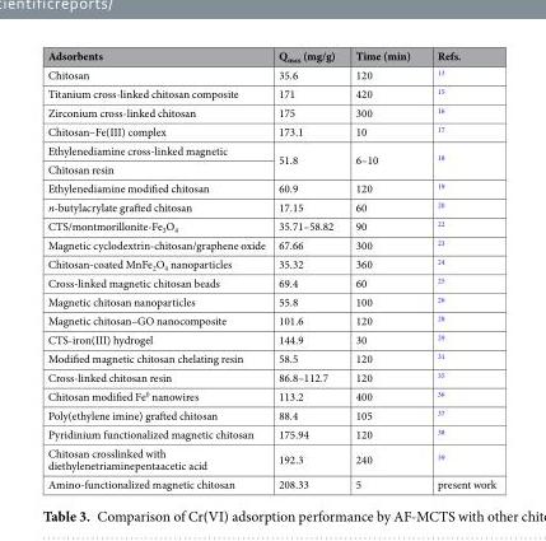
<table><thead><tr><td>Adsorbents</td><td>Q<sub>max</sub> (mg/g)</td><td>Time (min)</td><td>Refs.</td></tr></thead><tbody><tr><td>Chitosan</td><td>35.6</td><td>120</td><td><sup>13</sup></td></tr><tr><td>Titanium cross-linked chitosan composite</td><td>171</td><td>420</td><td><sup>15</sup></td></tr><tr><td>Zirconium cross-linked chitosan</td><td>175</td><td>300</td><td><sup>16</sup></td></tr><tr><td>Chitosan–Fe(III) complex</td><td>173.1</td><td>10</td><td><sup>17</sup></td></tr><tr><td>Ethylenediamine cross-linked magnetic</td><td rowspan="2">51.8</td><td rowspan="2">6–10</td><td rowspan="2"><sup>18</sup></td></tr><tr><td>Chitosan resin</td></tr><tr><td>Ethylenediamine modified chitosan</td><td>60.9</td><td>120</td><td><sup>19</sup></td></tr><tr><td>n-butylacrylate grafted chitosan</td><td>17.15</td><td>60</td><td><sup>20</sup></td></tr><tr><td>CTS/montmorillonite-Fe<sub>3</sub>O<sub>4</sub></td><td>35.71–58.82</td><td>90</td><td><sup>22</sup></td></tr><tr><td>Magnetic cyclodextrin-chitosan/graphene oxide</td><td>67.66</td><td>300</td><td><sup>23</sup></td></tr><tr><td>Chitosan-coated MnFe<sub>2</sub>O<sub>4</sub> nanoparticles</td><td>35.32</td><td>360</td><td><sup>24</sup></td></tr><tr><td>Cross-linked magnetic chitosan beads</td><td>69.4</td><td>60</td><td><sup>25</sup></td></tr><tr><td>Magnetic chitosan nanoparticles</td><td>55.8</td><td>100</td><td><sup>26</sup></td></tr><tr><td>Magnetic chitosan–GO nanocomposite</td><td>101.6</td><td>120</td><td><sup>28</sup></td></tr><tr><td>CTS-iron(III) hydrogel</td><td>144.9</td><td>30</td><td><sup>29</sup></td></tr><tr><td>Modified magnetic chitosan chelating resin</td><td>58.5</td><td>120</td><td><sup>31</sup></td></tr><tr><td>Cross-linked chitosan resin</td><td>86.8–112.7</td><td>120</td><td><sup>35</sup></td></tr><tr><td>Chitosan modified Fe<sup>0</sup> nanowires</td><td>113.2</td><td>400</td><td><sup>36</sup></td></tr><tr><td>Poly(ethylene imine) grafted chitosan</td><td>88.4</td><td>105</td><td><sup>37</sup></td></tr><tr><td>Pyridinium functionalized magnetic chitosan</td><td>175.94</td><td>120</td><td><sup>38</sup></td></tr><tr><td>Chitosan crosslinked with diethylenetriaminepentaacetic acid</td><td>192.3</td><td>240</td><td><sup>39</sup></td></tr><tr><td>Amino-functionalized magnetic chitosan</td><td>208.33</td><td>5</td><td>present work</td></tr></tbody></table>